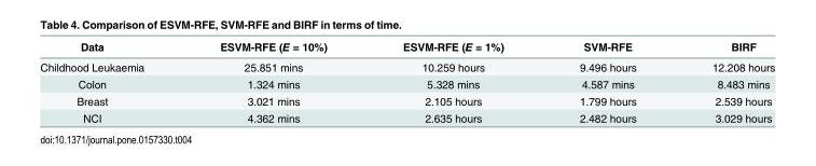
<table><thead><tr><td>Data</td><td>ESVM-RFE (E = 10%)</td><td>ESVM-RFE (E = 1%)</td><td>SVM-RFE</td><td>BIRF</td></tr></thead><tbody><tr><td>Childhood Leukaemia</td><td>25.851 mins</td><td>10.259 hours</td><td>9.496 hours</td><td>12.208 hours</td></tr><tr><td>Colon</td><td>1.324 mins</td><td>5.328 mins</td><td>4.587 mins</td><td>8.483 mins</td></tr><tr><td>Breast</td><td>3.021 mins</td><td>2.105 hours</td><td>1.799 hours</td><td>2.539 hours</td></tr><tr><td>NCI</td><td>4.362 mins</td><td>2.635 hours</td><td>2.482 hours</td><td>3.029 hours</td></tr></tbody></table>